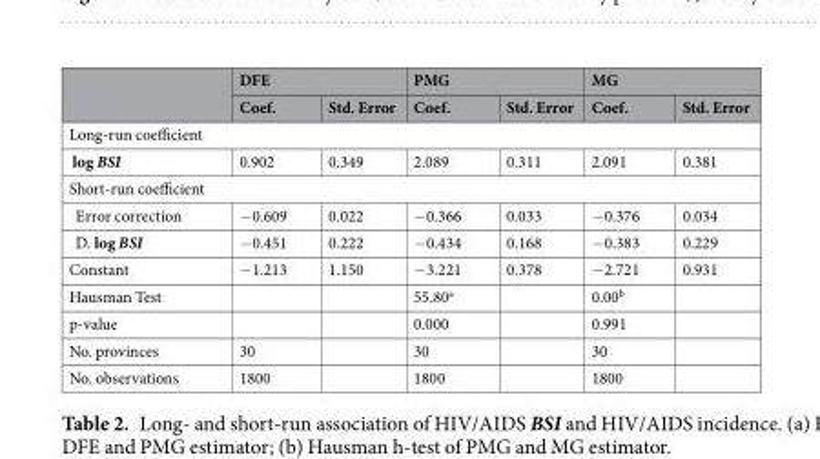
<table><thead><tr><td rowspan="2"></td><td colspan="2">DFE</td><td colspan="2">PMG</td><td colspan="2">MG</td></tr><tr><td>Coef.</td><td>Std. Error</td><td>Coef.</td><td>Std. Error</td><td>Coef.</td><td>Std. Error</td></tr></thead><tbody><tr><td colspan="7">Long-run coefficient</td></tr><tr><td>log BSI</td><td>0.902</td><td>0.349</td><td>2.089</td><td>0.311</td><td>2.091</td><td>0.381</td></tr><tr><td colspan="7">Short-run coefficient</td></tr><tr><td>Error correction</td><td>−0.609</td><td>0.022</td><td>−0.366</td><td>0.033</td><td>−0.376</td><td>0.034</td></tr><tr><td>D. log BSI</td><td>−0.451</td><td>0.222</td><td>−0.434</td><td>0.168</td><td>−0.383</td><td>0.229</td></tr><tr><td>Constant</td><td>−1.213</td><td>1.150</td><td>−3.221</td><td>0.378</td><td>−2.721</td><td>0.931</td></tr><tr><td>Hausman Test</td><td></td><td></td><td>55.80<sup>a</sup></td><td></td><td>0.00<sup>b</sup></td><td></td></tr><tr><td>p-value</td><td></td><td></td><td>0.000</td><td></td><td>0.991</td><td></td></tr><tr><td>No. provinces</td><td>30</td><td></td><td>30</td><td></td><td>30</td><td></td></tr><tr><td>No. observations</td><td>1800</td><td></td><td>1800</td><td></td><td>1800</td><td></td></tr></tbody></table>